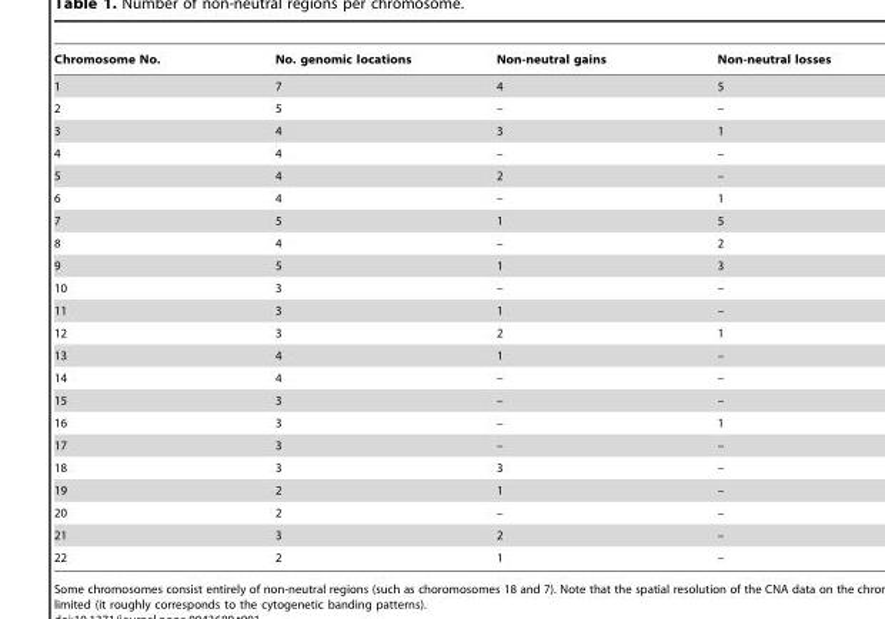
<table><thead><tr><td>Chromosome No.</td><td>No. genomic locations</td><td>Non-neutral gains</td><td>Non-neutral losses</td></tr></thead><tbody><tr><td>1</td><td>7</td><td>4</td><td>5</td></tr><tr><td>2</td><td>5</td><td>–</td><td>–</td></tr><tr><td>3</td><td>4</td><td>3</td><td>1</td></tr><tr><td>4</td><td>4</td><td>–</td><td>–</td></tr><tr><td>5</td><td>4</td><td>2</td><td>–</td></tr><tr><td>6</td><td>4</td><td>–</td><td>1</td></tr><tr><td>7</td><td>5</td><td>1</td><td>5</td></tr><tr><td>8</td><td>4</td><td>–</td><td>2</td></tr><tr><td>9</td><td>5</td><td>1</td><td>3</td></tr><tr><td>10</td><td>3</td><td>–</td><td>–</td></tr><tr><td>11</td><td>3</td><td>1</td><td>–</td></tr><tr><td>12</td><td>3</td><td>2</td><td>1</td></tr><tr><td>13</td><td>4</td><td>1</td><td>–</td></tr><tr><td>14</td><td>4</td><td>–</td><td>–</td></tr><tr><td>15</td><td>3</td><td>–</td><td>–</td></tr><tr><td>16</td><td>3</td><td>–</td><td>1</td></tr><tr><td>17</td><td>3</td><td>–</td><td>–</td></tr><tr><td>18</td><td>3</td><td>3</td><td>–</td></tr><tr><td>19</td><td>2</td><td>1</td><td>–</td></tr><tr><td>20</td><td>2</td><td>–</td><td>–</td></tr><tr><td>21</td><td>3</td><td>2</td><td>–</td></tr><tr><td>22</td><td>2</td><td>1</td><td>–</td></tr></tbody></table>